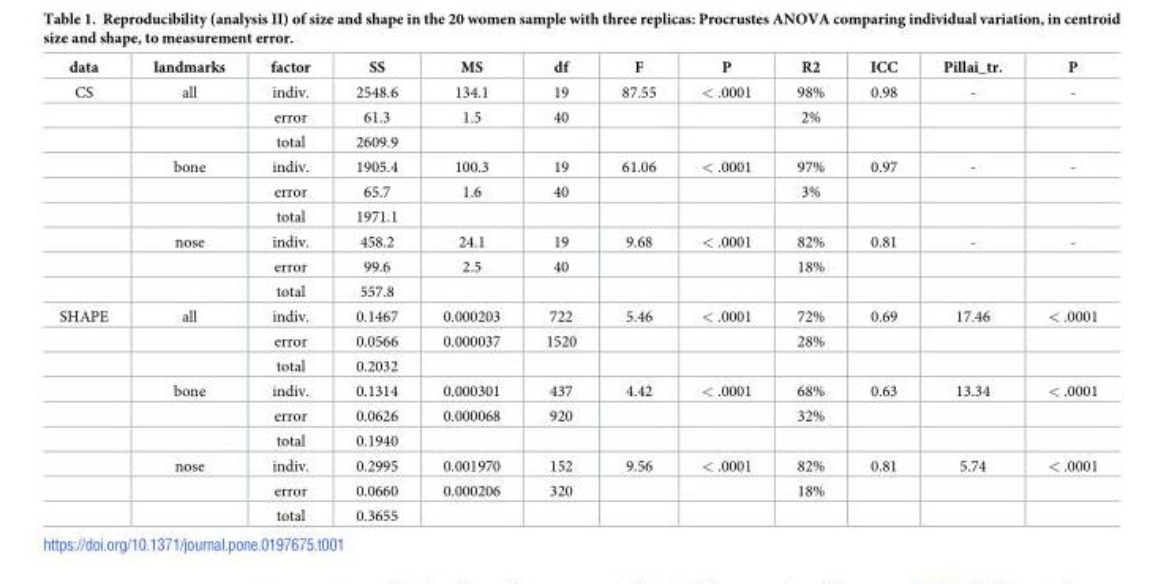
<table><thead><tr><td>data</td><td>landmarks</td><td>factor</td><td>SS</td><td>MS</td><td>df</td><td>F</td><td>P</td><td>R2</td><td>ICC</td><td>Pillai_tr.</td><td>P</td></tr></thead><tbody><tr><td rowspan="9">CS</td><td>all</td><td>indiv.</td><td>2548.6</td><td>134.1</td><td>19</td><td>87.55</td><td>&lt; .0001</td><td>98%</td><td>0.98</td><td>-</td><td>-</td></tr><tr><td></td><td>error</td><td>61.3</td><td>1.5</td><td>40</td><td></td><td></td><td>2%</td><td></td><td></td><td></td></tr><tr><td></td><td>total</td><td>2609.9</td><td></td><td></td><td></td><td></td><td></td><td></td><td></td><td></td></tr><tr><td>bone</td><td>indiv.</td><td>1905.4</td><td>100.3</td><td>19</td><td>61.06</td><td>&lt; .0001</td><td>97%</td><td>0.97</td><td>-</td><td>-</td></tr><tr><td></td><td>error</td><td>65.7</td><td>1.6</td><td>40</td><td></td><td></td><td>3%</td><td></td><td></td><td></td></tr><tr><td></td><td>total</td><td>1971.1</td><td></td><td></td><td></td><td></td><td></td><td></td><td></td><td></td></tr><tr><td>nose</td><td>indiv.</td><td>458.2</td><td>24.1</td><td>19</td><td>9.68</td><td>&lt; .0001</td><td>82%</td><td>0.81</td><td>-</td><td>-</td></tr><tr><td></td><td>error</td><td>99.6</td><td>2.5</td><td>40</td><td></td><td></td><td>18%</td><td></td><td></td><td></td></tr><tr><td></td><td>total</td><td>557.8</td><td></td><td></td><td></td><td></td><td></td><td></td><td></td><td></td></tr><tr><td rowspan="9">SHAPE</td><td>all</td><td>indiv.</td><td>0.1467</td><td>0.000203</td><td>722</td><td>5.46</td><td>&lt; .0001</td><td>72%</td><td>0.69</td><td>17.46</td><td>&lt; .0001</td></tr><tr><td></td><td>error</td><td>0.0566</td><td>0.000037</td><td>1520</td><td></td><td></td><td>28%</td><td></td><td></td><td></td></tr><tr><td></td><td>total</td><td>0.2032</td><td></td><td></td><td></td><td></td><td></td><td></td><td></td><td></td></tr><tr><td>bone</td><td>indiv.</td><td>0.1314</td><td>0.000301</td><td>437</td><td>4.42</td><td>&lt; .0001</td><td>68%</td><td>0.63</td><td>13.34</td><td>&lt; .0001</td></tr><tr><td></td><td>error</td><td>0.0626</td><td>0.000068</td><td>920</td><td></td><td></td><td>32%</td><td></td><td></td><td></td></tr><tr><td></td><td>total</td><td>0.1940</td><td></td><td></td><td></td><td></td><td></td><td></td><td></td><td></td></tr><tr><td>nose</td><td>indiv.</td><td>0.2995</td><td>0.001970</td><td>152</td><td>9.56</td><td>&lt; .0001</td><td>82%</td><td>0.81</td><td>5.74</td><td>&lt; .0001</td></tr><tr><td></td><td>error</td><td>0.0660</td><td>0.000206</td><td>320</td><td></td><td></td><td>18%</td><td></td><td></td><td></td></tr><tr><td></td><td>total</td><td>0.3655</td><td></td><td></td><td></td><td></td><td></td><td></td><td></td><td></td></tr></tbody></table>